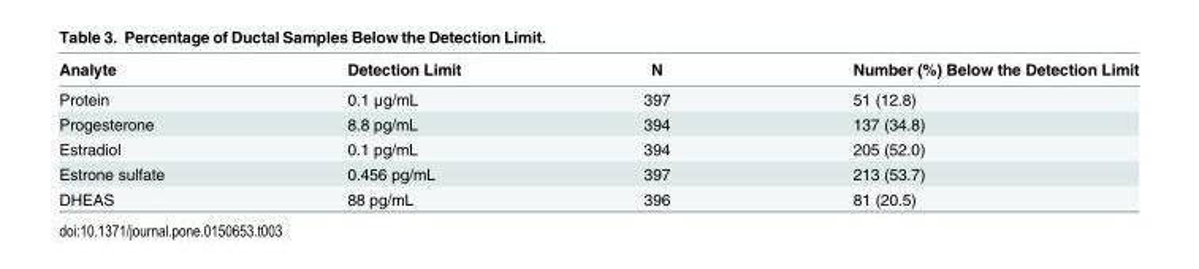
<table><thead><tr><td>Analyte</td><td>Detection Limit</td><td>N</td><td>Number (%) Below the Detection Limit</td></tr></thead><tbody><tr><td>Protein</td><td>0.1 μg/mL</td><td>397</td><td>51 (12.8)</td></tr><tr><td>Progesterone</td><td>8.8 pg/mL</td><td>394</td><td>137 (34.8)</td></tr><tr><td>Estradiol</td><td>0.1 pg/mL</td><td>394</td><td>205 (52.0)</td></tr><tr><td>Estrone sulfate</td><td>0.456 pg/mL</td><td>397</td><td>213 (53.7)</td></tr><tr><td>DHEAS</td><td>88 pg/mL</td><td>396</td><td>81 (20.5)</td></tr></tbody></table>